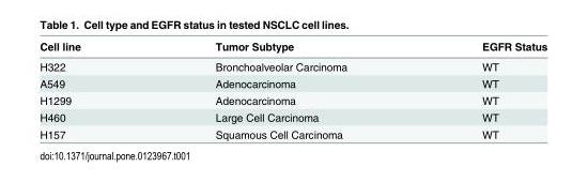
<table><thead><tr><td>Cell line</td><td>Tumor Subtype</td><td>EGFR Status</td></tr></thead><tbody><tr><td>H322</td><td>Bronchoalveolar Carcinoma</td><td>WT</td></tr><tr><td>A549</td><td>Adenocarcinoma</td><td>WT</td></tr><tr><td>H1299</td><td>Adenocarcinoma</td><td>WT</td></tr><tr><td>H460</td><td>Large Cell Carcinoma</td><td>WT</td></tr><tr><td>H157</td><td>Squamous Cell Carcinoma</td><td>WT</td></tr></tbody></table>